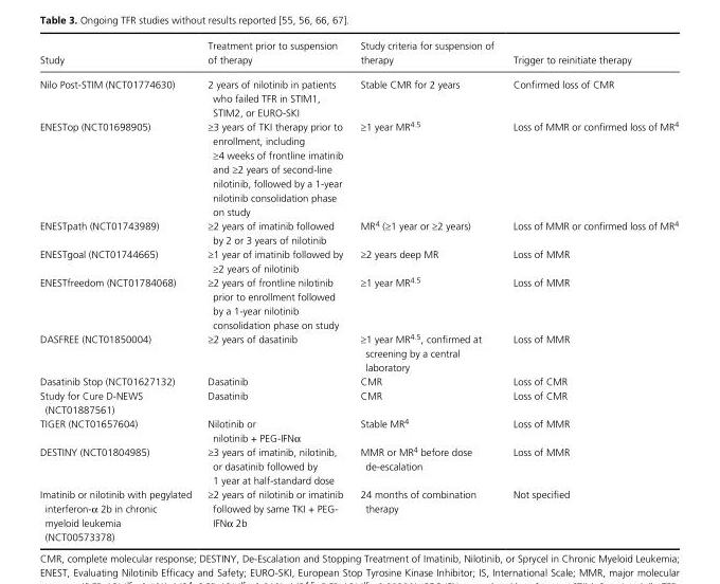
<table><thead><tr><td>Study</td><td>Treatment prior to suspension of therapy</td><td>Study criteria for suspension of therapy</td><td>Trigger to reinitiate therapy</td></tr></thead><tbody><tr><td>Nilo Post- STIM (NCT01774630)</td><td>2 years of nilotinib in patients who failed TFR in STIM1, STIM2, or EURO- SKI</td><td>Stable CMR for 2 years</td><td>Confirmed loss of CMR</td></tr><tr><td>ENESTop (NCT01698905)</td><td>≥3 years of TKI therapy prior to enrollment, including ≥4 weeks of frontline imatinib and ≥2 years of second- line nilotinib, followed by a 1- year nilotinib consolidation phase on study</td><td>≥1 year MR<sup>4.5</sup></td><td>Loss of MMR or confirmed loss of MR<sup>4</sup></td></tr><tr><td>ENESTpath (NCT01743989)</td><td>≥2 years of imatinib followed by 2 or 3 years of nilotinib</td><td>MR<sup>4</sup> (≥1 year or ≥2 years)</td><td>Loss of MMR or confirmed loss of MR<sup>4</sup></td></tr><tr><td>ENESTgoal (NCT01744665)</td><td>≥1 year of imatinib followed by ≥2 years of nilotinib</td><td>≥2 years deep MR</td><td>Loss of MMR</td></tr><tr><td>ENESTfreedom (NCT01784068)</td><td>≥2 years of frontline nilotinib prior to enrollment followed by a 1- year nilotinib consolidation phase on study</td><td>≥1 year MR<sup>4.5</sup></td><td>Loss of MMR</td></tr><tr><td>DASFREE (NCT01850004)</td><td>≥2 years of dasatinib</td><td>≥1 year MR<sup>4.5</sup>, confirmed at screening by a central laboratory</td><td>Loss of MMR</td></tr><tr><td>Dasatinib Stop (NCT01627132)</td><td>Dasatinib</td><td>CMR</td><td>Loss of CMR</td></tr><tr><td>Study for Cure D- NEWS (NCT01887561)</td><td>Dasatinib</td><td>CMR</td><td>Loss of CMR</td></tr><tr><td>TIGER (NCT01657604)</td><td>Nilotinib or nilotinib + PEG- IFNα</td><td>Stable MR<sup>4</sup></td><td>Loss of MMR</td></tr><tr><td>DESTINY (NCT01804985)</td><td>≥3 years of imatinib, nilotinib, or dasatinib followed by 1 year at half- standard dose</td><td>MMR or MR<sup>4</sup> before dose de- escalation</td><td>Loss of MMR</td></tr><tr><td>Imatinib or nilotinib with pegylated interferon- α 2b in chronic myeloid leukemia (NCT00573378)</td><td>≥2 years of nilotinib or imatinib followed by same TKI + PEG- IFNα 2b</td><td>24 months of combination therapy</td><td>Not specified</td></tr></tbody></table>